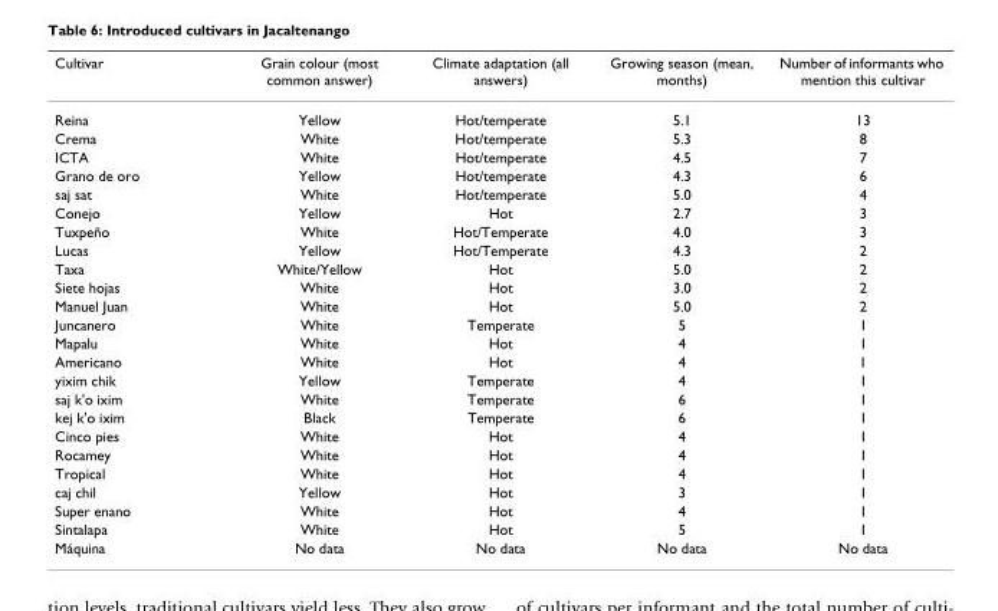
<table><thead><tr><td>Cultivar</td><td>Grain colour (most common answer)</td><td>Climate adaptation (all answers)</td><td>Growing season (mean, months)</td><td>Number of informants who mention this cultivar</td></tr></thead><tbody><tr><td>Reina</td><td>Yellow</td><td>Hot/temperate</td><td>5.1</td><td>13</td></tr><tr><td>Crema</td><td>White</td><td>Hot/temperate</td><td>5.3</td><td>8</td></tr><tr><td>ICTA</td><td>White</td><td>Hot/temperate</td><td>4.5</td><td>7</td></tr><tr><td>Grano de oro</td><td>Yellow</td><td>Hot/temperate</td><td>4.3</td><td>6</td></tr><tr><td>saj sat</td><td>White</td><td>Hot/temperate</td><td>5.0</td><td>4</td></tr><tr><td>Conejo</td><td>Yellow</td><td>Hot</td><td>2.7</td><td>3</td></tr><tr><td>Tuxpeño</td><td>White</td><td>Hot/Temperate</td><td>4.0</td><td>3</td></tr><tr><td>Lucas</td><td>Yellow</td><td>Hot/Temperate</td><td>4.3</td><td>2</td></tr><tr><td>Taxa</td><td>White/Yellow</td><td>Hot</td><td>5.0</td><td>2</td></tr><tr><td>Siete hojas</td><td>White</td><td>Hot</td><td>3.0</td><td>2</td></tr><tr><td>Manuel Juan</td><td>White</td><td>Hot</td><td>5.0</td><td>2</td></tr><tr><td>Juncanero</td><td>White</td><td>Temperate</td><td>5</td><td>1</td></tr><tr><td>Mapalu</td><td>White</td><td>Hot</td><td>4</td><td>1</td></tr><tr><td>Americano</td><td>White</td><td>Hot</td><td>4</td><td>1</td></tr><tr><td>yixim chik</td><td>Yellow</td><td>Temperate</td><td>4</td><td>1</td></tr><tr><td>saj k&#x27;o ixim</td><td>White</td><td>Temperate</td><td>6</td><td>1</td></tr><tr><td>kej k&#x27;o ixim</td><td>Black</td><td>Temperate</td><td>6</td><td>1</td></tr><tr><td>Cinco pies</td><td>White</td><td>Hot</td><td>4</td><td>1</td></tr><tr><td>Rocamey</td><td>White</td><td>Hot</td><td>4</td><td>1</td></tr><tr><td>Tropical</td><td>White</td><td>Hot</td><td>4</td><td>1</td></tr><tr><td>caj chil</td><td>Yellow</td><td>Hot</td><td>3</td><td>1</td></tr><tr><td>Super enano</td><td>White</td><td>Hot</td><td>4</td><td>1</td></tr><tr><td>Sintalapa</td><td>White</td><td>Hot</td><td>5</td><td>1</td></tr><tr><td>Máquina</td><td>No data</td><td>No data</td><td>No data</td><td>No data</td></tr></tbody></table>